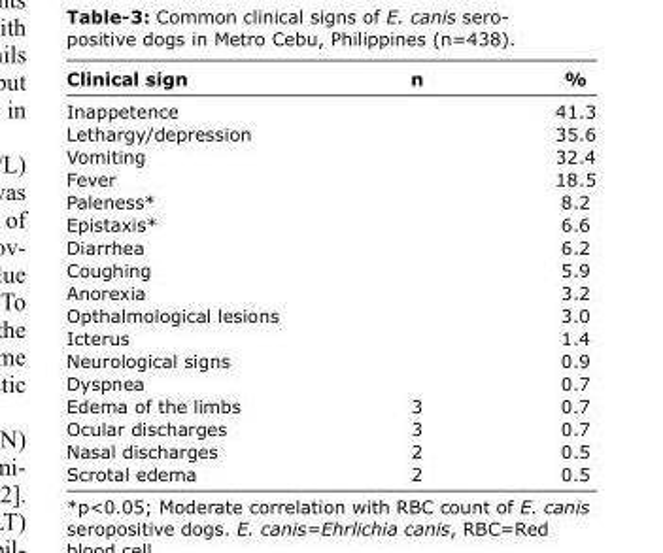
<table><thead><tr><td>Clinical sign</td><td>n</td><td>%</td></tr></thead><tbody><tr><td>Inappetence</td><td></td><td>41.3</td></tr><tr><td>Lethargy/depression</td><td></td><td>35.6</td></tr><tr><td>Vomiting</td><td></td><td>32.4</td></tr><tr><td>Fever</td><td></td><td>18.5</td></tr><tr><td>Paleness*</td><td></td><td>8.2</td></tr><tr><td>Epistaxis*</td><td></td><td>6.6</td></tr><tr><td>Diarrhea</td><td></td><td>6.2</td></tr><tr><td>Coughing</td><td></td><td>5.9</td></tr><tr><td>Anorexia</td><td></td><td>3.2</td></tr><tr><td>Opthalmological lesions</td><td></td><td>3.0</td></tr><tr><td>Icterus</td><td></td><td>1.4</td></tr><tr><td>Neurological signs</td><td></td><td>0.9</td></tr><tr><td>Dyspnea</td><td></td><td>0.7</td></tr><tr><td>Edema of the limbs</td><td>3</td><td>0.7</td></tr><tr><td>Ocular discharges</td><td>3</td><td>0.7</td></tr><tr><td>Nasal discharges</td><td>2</td><td>0.5</td></tr><tr><td>Scrotal edema</td><td>2</td><td>0.5</td></tr></tbody></table>